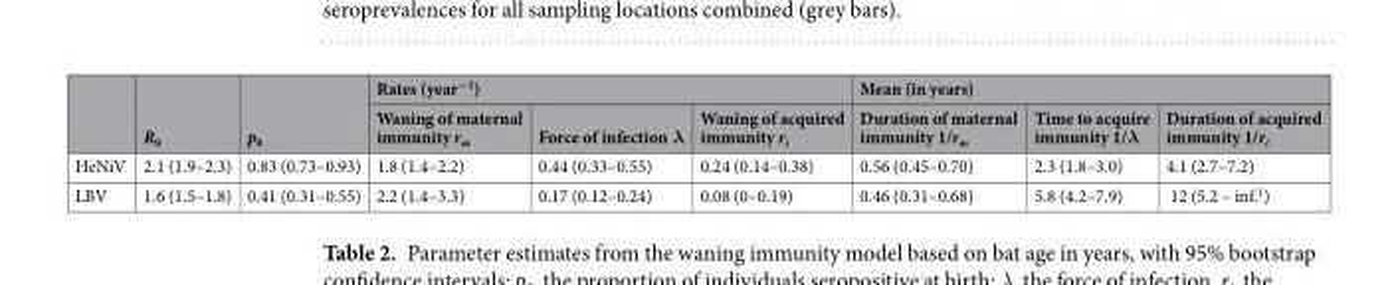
<table><thead><tr><td rowspan="2"></td><td rowspan="2">R<sub>0</sub></td><td rowspan="2">p<sub>0</sub></td><td colspan="3">Rates (year<sup>−1</sup>)</td><td colspan="3">Mean (in years)</td></tr><tr><td>Waning of maternal immunity r<sub>m</sub></td><td>Force of infection λ</td><td>Waning of acquired immunity r<sub>i</sub></td><td>Duration of maternal immunity 1/r<sub>m</sub></td><td>Time to acquire immunity 1/λ</td><td>Duration of acquired immunity 1/r<sub>i</sub></td></tr></thead><tbody><tr><td>HeNiV</td><td>2.1 (1.9–2.3)</td><td>0.83 (0.73–0.93)</td><td>1.8 (1.4–2.2)</td><td>0.44 (0.33–0.55)</td><td>0.24 (0.14–0.38)</td><td>0.56 (0.45–0.70)</td><td>2.3 (1.8–3.0)</td><td>4.1 (2.7–7.2)</td></tr><tr><td>LBV</td><td>1.6 (1.5–1.8)</td><td>0.41 (0.31–0.55)</td><td>2.2 (1.4–3.3)</td><td>0.17 (0.12–0.24)</td><td>0.08 (0–0.19)</td><td>0.46 (0.31–0.68)</td><td>5.8 (4.2–7.9)</td><td>12 (5.2 – inf.<sup>1</sup>)</td></tr></tbody></table>